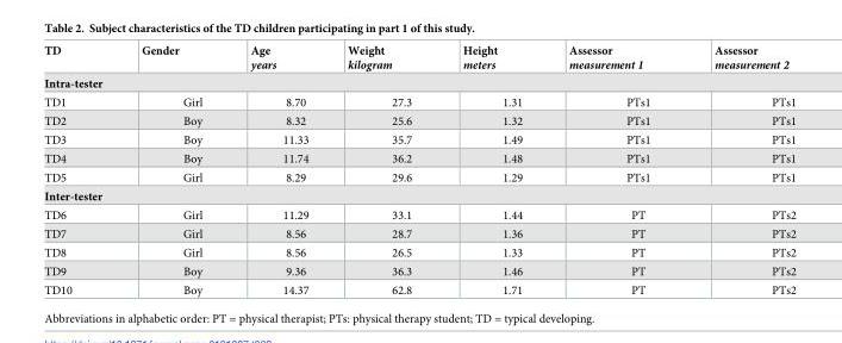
<table><thead><tr><td>TD</td><td>Gender</td><td>Age years</td><td>Weight kilogram</td><td>Height meters</td><td>Assessor measurement 1</td><td>Assessor measurement 2</td></tr></thead><tbody><tr><td colspan="7">Intra-tester</td></tr><tr><td>TD1</td><td>Girl</td><td>8.70</td><td>27.3</td><td>1.31</td><td>PTs1</td><td>PTs1</td></tr><tr><td>TD2</td><td>Boy</td><td>8.32</td><td>25.6</td><td>1.32</td><td>PTs1</td><td>PTs1</td></tr><tr><td>TD3</td><td>Boy</td><td>11.33</td><td>35.7</td><td>1.49</td><td>PTs1</td><td>PTs1</td></tr><tr><td>TD4</td><td>Boy</td><td>11.74</td><td>36.2</td><td>1.48</td><td>PTs1</td><td>PTs1</td></tr><tr><td>TD5</td><td>Girl</td><td>8.29</td><td>29.6</td><td>1.29</td><td>PTs1</td><td>PTs1</td></tr><tr><td colspan="7">Inter-tester</td></tr><tr><td>TD6</td><td>Girl</td><td>11.29</td><td>33.1</td><td>1.44</td><td>PT</td><td>PTs2</td></tr><tr><td>TD7</td><td>Girl</td><td>8.56</td><td>28.7</td><td>1.36</td><td>PT</td><td>PTs2</td></tr><tr><td>TD8</td><td>Girl</td><td>8.56</td><td>26.5</td><td>1.33</td><td>PT</td><td>PTs2</td></tr><tr><td>TD9</td><td>Boy</td><td>9.36</td><td>36.3</td><td>1.46</td><td>PT</td><td>PTs2</td></tr><tr><td>TD10</td><td>Boy</td><td>14.37</td><td>62.8</td><td>1.71</td><td>PT</td><td>PTs2</td></tr></tbody></table>